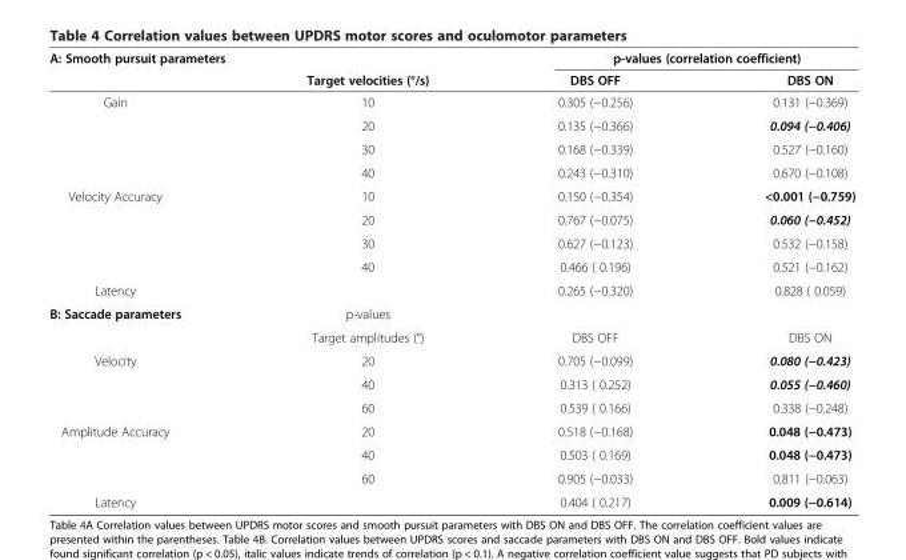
<table><thead><tr><td colspan="2">A: Smooth pursuit parameters</td><td colspan="2">p-values (correlation coefficient)</td></tr><tr><td></td><td>Target velocities (°/s)</td><td>DBS OFF</td><td>DBS ON</td></tr></thead><tbody><tr><td rowspan="4">Gain</td><td>10</td><td>0.305 (−0.256)</td><td>0.131 (−0.369)</td></tr><tr><td>20</td><td>0.135 (−0.366)</td><td>0.094 (−0.406)</td></tr><tr><td>30</td><td>0.168 (−0.339)</td><td>0.527 (−0.160)</td></tr><tr><td>40</td><td>0.243 (−0.310)</td><td>0.670 (−0.108)</td></tr><tr><td rowspan="4">Velocity Accuracy</td><td>10</td><td>0.150 (−0.354)</td><td>&lt;0.001 (−0.759)</td></tr><tr><td>20</td><td>0.767 (−0.075)</td><td>0.060 (−0.452)</td></tr><tr><td>30</td><td>0.627 (−0.123)</td><td>0.532 (−0.158)</td></tr><tr><td>40</td><td>0.466 ( 0.196)</td><td>0.521 (−0.162)</td></tr><tr><td>Latency</td><td></td><td>0.265 (−0.320)</td><td>0.828 ( 0.059)</td></tr><tr><td rowspan="2">B: Saccade parameters</td><td>p-values</td><td></td><td></td></tr><tr><td>Target amplitudes (°)</td><td>DBS OFF</td><td>DBS ON</td></tr><tr><td rowspan="3">Velocity</td><td>20</td><td>0.705 (−0.099)</td><td>0.080 (−0.423)</td></tr><tr><td>40</td><td>0.313 ( 0.252)</td><td>0.055 (−0.460)</td></tr><tr><td>60</td><td>0.539 ( 0.166)</td><td>0.338 (−0.248)</td></tr><tr><td rowspan="3">Amplitude Accuracy</td><td>20</td><td>0.518 (−0.168)</td><td>0.048 (−0.473)</td></tr><tr><td>40</td><td>0.503 ( 0.169)</td><td>0.048 (−0.473)</td></tr><tr><td>60</td><td>0.905 (−0.033)</td><td>0.811 (−0.063)</td></tr><tr><td>Latency</td><td></td><td>0.404 ( 0.217)</td><td>0.009 (−0.614)</td></tr></tbody></table>